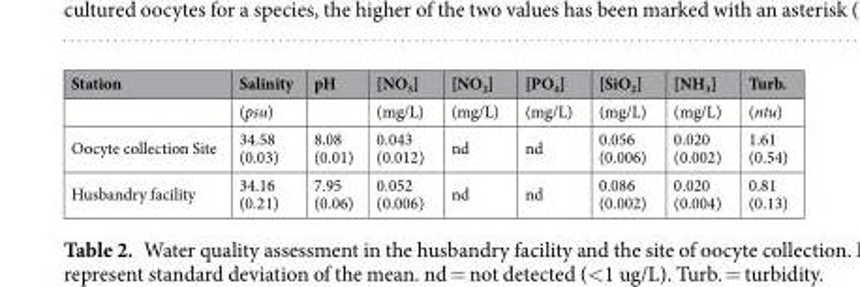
<table><thead><tr><td>Station</td><td>Salinity</td><td>pH</td><td>[NO<sub>3</sub>]</td><td>[NO<sub>2</sub>]</td><td>[PO<sub>4</sub>]</td><td>[SiO<sub>2</sub>]</td><td>[NH<sub>3</sub>]</td><td>Turb.</td></tr></thead><tbody><tr><td></td><td>(psu)</td><td></td><td>(mg/L)</td><td>(mg/L)</td><td>(mg/L)</td><td>(mg/L)</td><td>(mg/L)</td><td>(ntu)</td></tr><tr><td>Oocyte collection Site</td><td>34.58 (0.03)</td><td>8.08 (0.01)</td><td>0.043 (0.012)</td><td>nd</td><td>nd</td><td>0.056 (0.006)</td><td>0.020 (0.002)</td><td>1.61 (0.54)</td></tr><tr><td>Husbandry facility</td><td>34.16 (0.21)</td><td>7.95 (0.06)</td><td>0.052 (0.006)</td><td>nd</td><td>nd</td><td>0.086 (0.002)</td><td>0.020 (0.004)</td><td>0.81 (0.13)</td></tr></tbody></table>